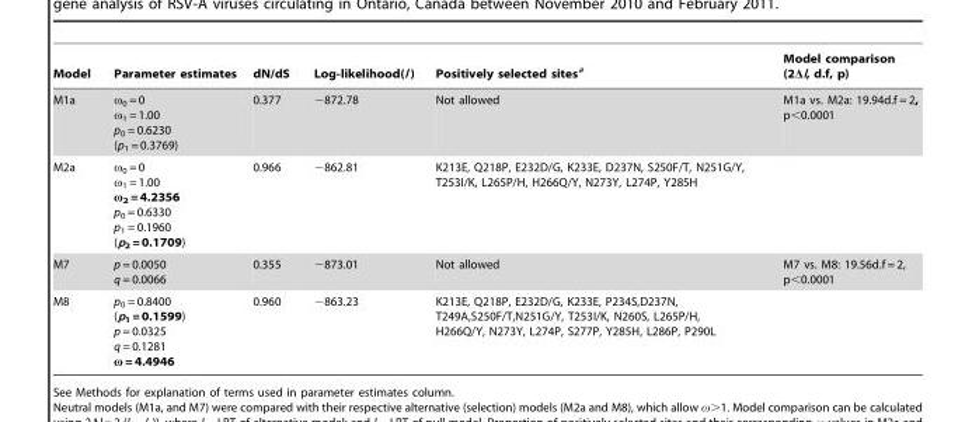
<table><thead><tr><td>Model</td><td>Parameter estimates</td><td>dN/dS</td><td>Log-likelihood(l )</td><td>Positively selected sites<sup>a</sup></td><td>Model comparison (2Δl, d.f, p)</td></tr></thead><tbody><tr><td>M1a</td><td>ω<sub>0</sub> = 0 ω<sub>1</sub> = 1.00 p<sub>0</sub> = 0.6230 (p<sub>1</sub> = 0.3769)</td><td>0.377</td><td>−872.78</td><td>Not allowed</td><td>M1a vs. M2a: 19.94d.f = 2, p&lt;0.0001</td></tr><tr><td>M2a</td><td>ω<sub>0</sub> = 0 ω<sub>1</sub> = 1.00 ω<sub>2</sub> = 4.2356 p<sub>0</sub> = 0.6330 p<sub>1</sub> = 0.1960 (p<sub>2</sub> = 0.1709)</td><td>0.966</td><td>−862.81</td><td>K213E, Q218P, E232D/G, K233E, D237N, S250F/T, N251G/Y, T253I/K, L265P/H, H266Q/Y, N273Y, L274P, Y285H</td><td></td></tr><tr><td>M7</td><td>p = 0.0050 q = 0.0066</td><td>0.355</td><td>−873.01</td><td>Not allowed</td><td>M7 vs. M8: 19.56d.f = 2, p&lt;0.0001</td></tr><tr><td>M8</td><td>p<sub>0</sub> = 0.8400 (p<sub>1</sub> = 0.1599) p = 0.0325 q = 0.1281 ω = 4.4946</td><td>0.960</td><td>−863.23</td><td>K213E, Q218P, E232D/G, K233E, P234S,D237N, T249A,S250F/T,N251G/Y, T253I/K, N260S, L265P/H, H266Q/Y, N273Y, L274P, S277P, Y285H, L286P, P290L</td><td></td></tr></tbody></table>